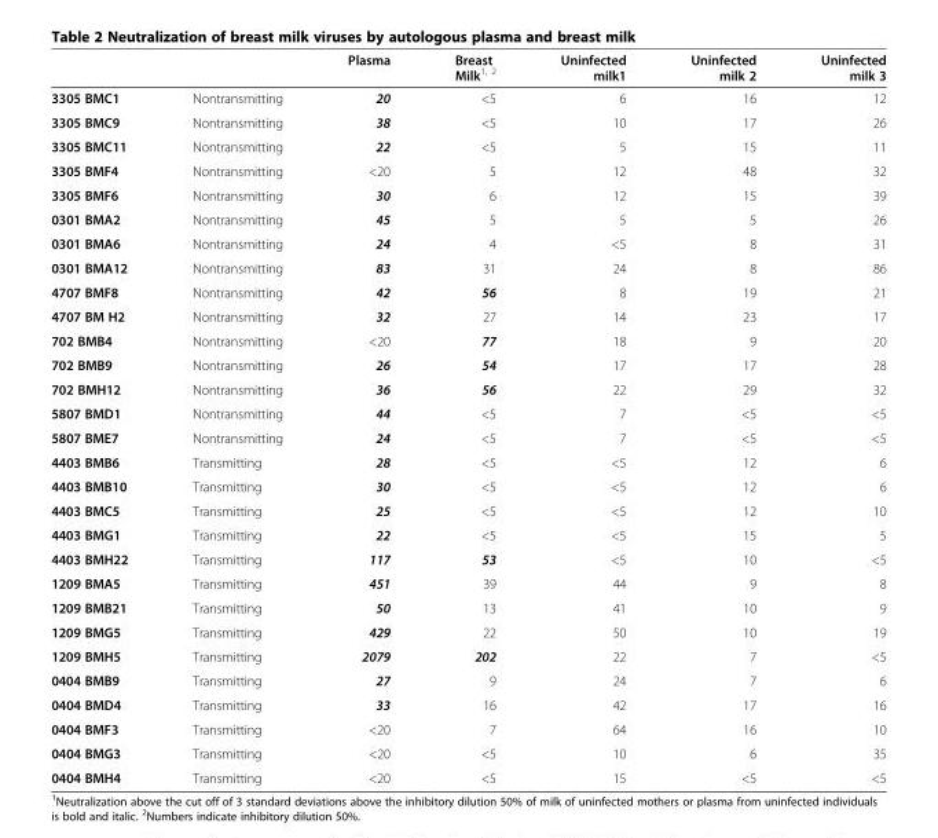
<table><thead><tr><td></td><td></td><td>Plasma</td><td>Breast Milk<sup>1, 2</sup></td><td>Uninfected milk1</td><td>Uninfected milk 2</td><td>Uninfected milk 3</td></tr></thead><tbody><tr><td>3305 BMC1</td><td>Nontransmitting</td><td>20</td><td>&lt;5</td><td>6</td><td>16</td><td>12</td></tr><tr><td>3305 BMC9</td><td>Nontransmitting</td><td>38</td><td>&lt;5</td><td>10</td><td>17</td><td>26</td></tr><tr><td>3305 BMC11</td><td>Nontransmitting</td><td>22</td><td>&lt;5</td><td>5</td><td>15</td><td>11</td></tr><tr><td>3305 BMF4</td><td>Nontransmitting</td><td>&lt;20</td><td>5</td><td>12</td><td>48</td><td>32</td></tr><tr><td>3305 BMF6</td><td>Nontransmitting</td><td>30</td><td>6</td><td>12</td><td>15</td><td>39</td></tr><tr><td>0301 BMA2</td><td>Nontransmitting</td><td>45</td><td>5</td><td>5</td><td>5</td><td>26</td></tr><tr><td>0301 BMA6</td><td>Nontransmitting</td><td>24</td><td>4</td><td>&lt;5</td><td>8</td><td>31</td></tr><tr><td>0301 BMA12</td><td>Nontransmitting</td><td>83</td><td>31</td><td>24</td><td>8</td><td>86</td></tr><tr><td>4707 BMF8</td><td>Nontransmitting</td><td>42</td><td>56</td><td>8</td><td>19</td><td>21</td></tr><tr><td>4707 BM H2</td><td>Nontransmitting</td><td>32</td><td>27</td><td>14</td><td>23</td><td>17</td></tr><tr><td>702 BMB4</td><td>Nontransmitting</td><td>&lt;20</td><td>77</td><td>18</td><td>9</td><td>20</td></tr><tr><td>702 BMB9</td><td>Nontransmitting</td><td>26</td><td>54</td><td>17</td><td>17</td><td>28</td></tr><tr><td>702 BMH12</td><td>Nontransmitting</td><td>36</td><td>56</td><td>22</td><td>29</td><td>32</td></tr><tr><td>5807 BMD1</td><td>Nontransmitting</td><td>44</td><td>&lt;5</td><td>7</td><td>&lt;5</td><td>&lt;5</td></tr><tr><td>5807 BME7</td><td>Nontransmitting</td><td>24</td><td>&lt;5</td><td>7</td><td>&lt;5</td><td>&lt;5</td></tr><tr><td>4403 BMB6</td><td>Transmitting</td><td>28</td><td>&lt;5</td><td>&lt;5</td><td>12</td><td>6</td></tr><tr><td>4403 BMB10</td><td>Transmitting</td><td>30</td><td>&lt;5</td><td>&lt;5</td><td>12</td><td>6</td></tr><tr><td>4403 BMC5</td><td>Transmitting</td><td>25</td><td>&lt;5</td><td>&lt;5</td><td>12</td><td>10</td></tr><tr><td>4403 BMG1</td><td>Transmitting</td><td>22</td><td>&lt;5</td><td>&lt;5</td><td>15</td><td>5</td></tr><tr><td>4403 BMH22</td><td>Transmitting</td><td>117</td><td>53</td><td>&lt;5</td><td>10</td><td>&lt;5</td></tr><tr><td>1209 BMA5</td><td>Transmitting</td><td>451</td><td>39</td><td>44</td><td>9</td><td>8</td></tr><tr><td>1209 BMB21</td><td>Transmitting</td><td>50</td><td>13</td><td>41</td><td>10</td><td>9</td></tr><tr><td>1209 BMG5</td><td>Transmitting</td><td>429</td><td>22</td><td>50</td><td>10</td><td>19</td></tr><tr><td>1209 BMH5</td><td>Transmitting</td><td>2079</td><td>202</td><td>22</td><td>7</td><td>&lt;5</td></tr><tr><td>0404 BMB9</td><td>Transmitting</td><td>27</td><td>9</td><td>24</td><td>7</td><td>6</td></tr><tr><td>0404 BMD4</td><td>Transmitting</td><td>33</td><td>16</td><td>42</td><td>17</td><td>16</td></tr><tr><td>0404 BMF3</td><td>Transmitting</td><td>&lt;20</td><td>7</td><td>64</td><td>16</td><td>10</td></tr><tr><td>0404 BMG3</td><td>Transmitting</td><td>&lt;20</td><td>&lt;5</td><td>10</td><td>6</td><td>35</td></tr><tr><td>0404 BMH4</td><td>Transmitting</td><td>&lt;20</td><td>&lt;5</td><td>15</td><td>&lt;5</td><td>&lt;5</td></tr></tbody></table>